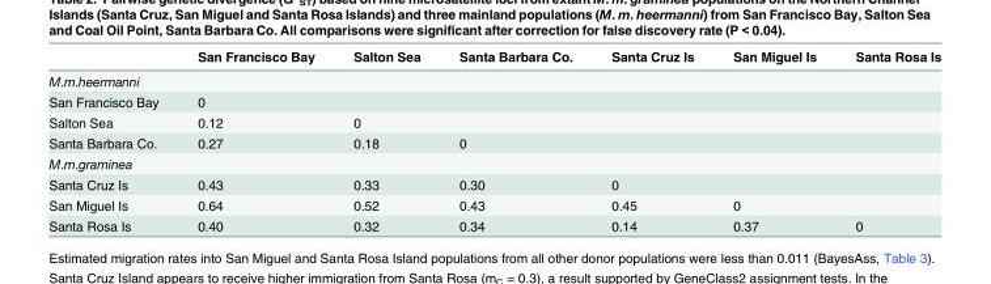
<table><thead><tr><td></td><td>San Francisco Bay</td><td>Salton Sea</td><td>Santa Barbara Co.</td><td>Santa Cruz Is</td><td>San Miguel Is</td><td>Santa Rosa Is</td></tr></thead><tbody><tr><td colspan="7">M.m.heermanni</td></tr><tr><td>San Francisco Bay</td><td>0</td><td></td><td></td><td></td><td></td><td></td></tr><tr><td>Salton Sea</td><td>0.12</td><td>0</td><td></td><td></td><td></td><td></td></tr><tr><td>Santa Barbara Co.</td><td>0.27</td><td>0.18</td><td>0</td><td></td><td></td><td></td></tr><tr><td colspan="7">M.m.graminea</td></tr><tr><td>Santa Cruz Is</td><td>0.43</td><td>0.33</td><td>0.30</td><td>0</td><td></td><td></td></tr><tr><td>San Miguel Is</td><td>0.64</td><td>0.52</td><td>0.43</td><td>0.45</td><td>0</td><td></td></tr><tr><td>Santa Rosa Is</td><td>0.40</td><td>0.32</td><td>0.34</td><td>0.14</td><td>0.37</td><td>0</td></tr></tbody></table>